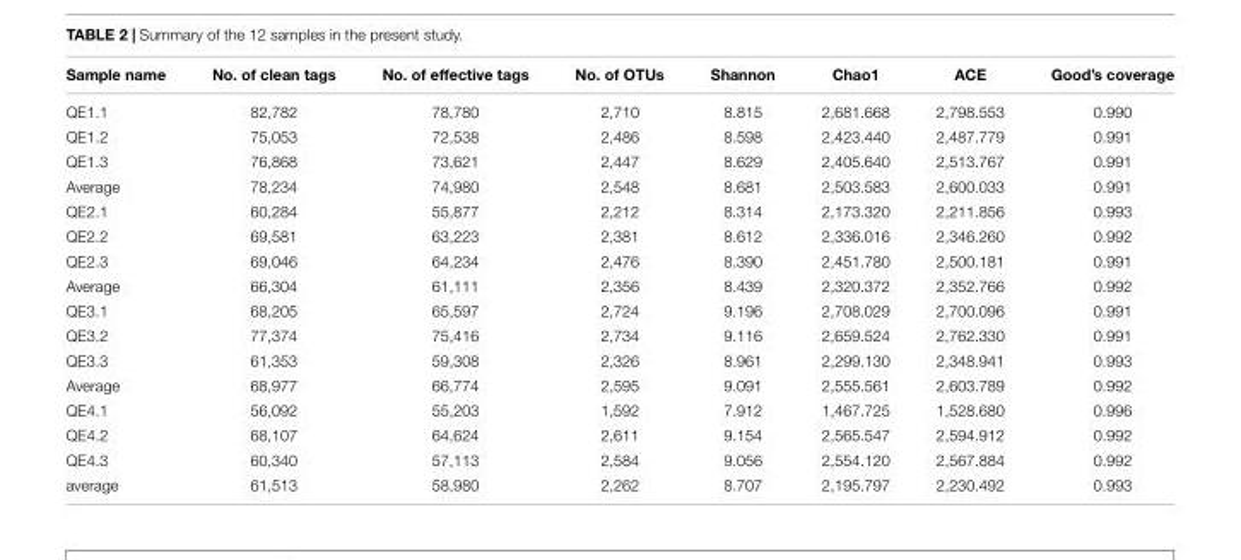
<table><thead><tr><td>Sample name</td><td>No. of clean tags</td><td>No. of effective tags</td><td>No. of OTUs</td><td>Shannon</td><td>Chao1</td><td>ACE</td><td>Good’s coverage</td></tr></thead><tbody><tr><td>QE1.1</td><td>82,782</td><td>78,780</td><td>2,710</td><td>8.815</td><td>2,681.668</td><td>2,798.553</td><td>0.990</td></tr><tr><td>QE1.2</td><td>75,053</td><td>72,538</td><td>2,486</td><td>8.598</td><td>2,423.440</td><td>2,487.779</td><td>0.991</td></tr><tr><td>QE1.3</td><td>76,868</td><td>73,621</td><td>2,447</td><td>8.629</td><td>2,405.640</td><td>2,513.767</td><td>0.991</td></tr><tr><td>Average</td><td>78,234</td><td>74,980</td><td>2,548</td><td>8.681</td><td>2,503.583</td><td>2,600.033</td><td>0.991</td></tr><tr><td>QE2.1</td><td>60,284</td><td>55,877</td><td>2,212</td><td>8.314</td><td>2,173.320</td><td>2,211.856</td><td>0.993</td></tr><tr><td>QE2.2</td><td>69,581</td><td>63,223</td><td>2,381</td><td>8.612</td><td>2,336.016</td><td>2,346.260</td><td>0.992</td></tr><tr><td>QE2.3</td><td>69,046</td><td>64,234</td><td>2,476</td><td>8.390</td><td>2,451.780</td><td>2,500.181</td><td>0.991</td></tr><tr><td>Average</td><td>66,304</td><td>61,111</td><td>2,356</td><td>8.439</td><td>2,320.372</td><td>2,352.766</td><td>0.992</td></tr><tr><td>QE3.1</td><td>68,205</td><td>65,597</td><td>2,724</td><td>9.196</td><td>2,708.029</td><td>2,700.096</td><td>0.991</td></tr><tr><td>QE3.2</td><td>77,374</td><td>75,416</td><td>2,734</td><td>9.116</td><td>2,659.524</td><td>2,762.330</td><td>0.991</td></tr><tr><td>QE3.3</td><td>61,353</td><td>59,308</td><td>2,326</td><td>8.961</td><td>2,299.130</td><td>2,348.941</td><td>0.993</td></tr><tr><td>Average</td><td>68,977</td><td>66,774</td><td>2,595</td><td>9.091</td><td>2,555.561</td><td>2,603.789</td><td>0.992</td></tr><tr><td>QE4.1</td><td>56,092</td><td>55,203</td><td>1,592</td><td>7.912</td><td>1,467.725</td><td>1,528.680</td><td>0.996</td></tr><tr><td>QE4.2</td><td>68,107</td><td>64,624</td><td>2,611</td><td>9.154</td><td>2,565.547</td><td>2,594.912</td><td>0.992</td></tr><tr><td>QE4.3</td><td>60,340</td><td>57,113</td><td>2,584</td><td>9.056</td><td>2,554.120</td><td>2,567.884</td><td>0.992</td></tr><tr><td>average</td><td>61,513</td><td>58,980</td><td>2,262</td><td>8.707</td><td>2,195.797</td><td>2,230.492</td><td>0.993</td></tr></tbody></table>